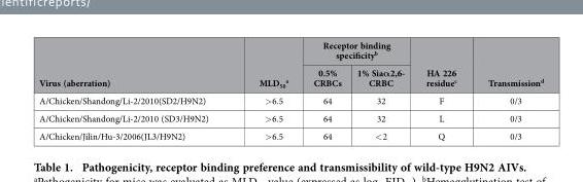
<table><thead><tr><td rowspan="2">Virus (aberration)</td><td rowspan="2">MLD<sub>50</sub> <sup>a</sup></td><td colspan="2">Receptor binding specificity<sup>b</sup></td><td rowspan="2">HA 226 residue<sup>c</sup></td><td rowspan="2">Transmission<sup>d</sup></td></tr><tr><td>0.5% CRBCs</td><td>1% Siaα2,6- CRBC</td></tr></thead><tbody><tr><td>A/Chicken/Shandong/Li-2/2010(SD2/H9N2)</td><td>&gt; 6.5</td><td>64</td><td>32</td><td>F</td><td>0/3</td></tr><tr><td>A/Chicken/Shandong/Li-2/2010 (SD3/H9N2)</td><td>&gt; 6.5</td><td>64</td><td>32</td><td>L</td><td>0/3</td></tr><tr><td>A/Chicken/Jilin/Hu-3/2006(JL3/H9N2)</td><td>&gt; 6.5</td><td>64</td><td>&lt; 2</td><td>Q</td><td>0/3</td></tr></tbody></table>